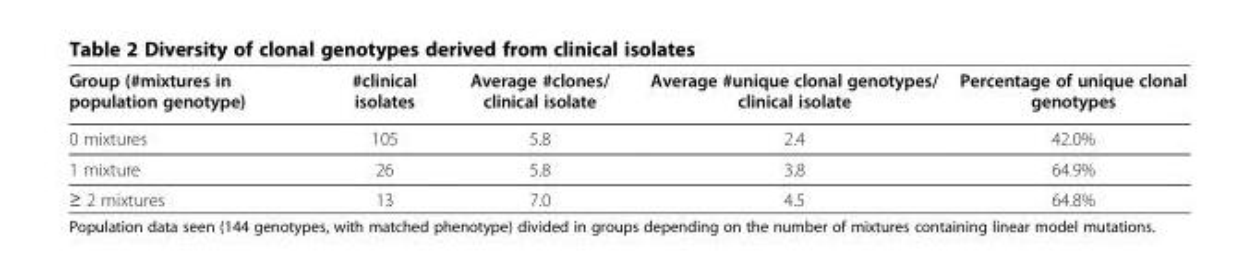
<table><thead><tr><td>Group (#mixtures in population genotype)</td><td>#clinical isolates</td><td>Average #clones/ clinical isolate</td><td>Average #unique clonal genotypes/ clinical isolate</td><td>Percentage of unique clonal genotypes</td></tr></thead><tbody><tr><td>0 mixtures</td><td>105</td><td>5.8</td><td>2.4</td><td>42.0%</td></tr><tr><td>1 mixture</td><td>26</td><td>5.8</td><td>3.8</td><td>64.9%</td></tr><tr><td>≥ 2 mixtures</td><td>13</td><td>7.0</td><td>4.5</td><td>64.8%</td></tr></tbody></table>